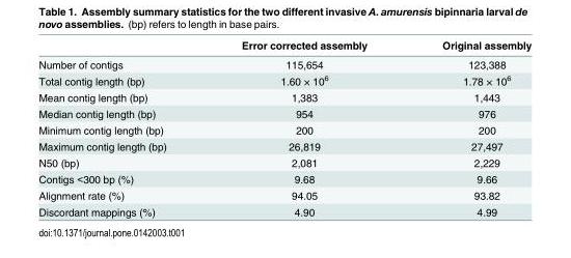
<table><thead><tr><td></td><td>Error corrected assembly</td><td>Original assembly</td></tr></thead><tbody><tr><td>Number of contigs</td><td>115,654</td><td>123,388</td></tr><tr><td>Total contig length (bp)</td><td>1.60 × 10<sup>6</sup></td><td>1.78 × 10<sup>6</sup></td></tr><tr><td>Mean contig length (bp)</td><td>1,383</td><td>1,443</td></tr><tr><td>Median contig length (bp)</td><td>954</td><td>976</td></tr><tr><td>Minimum contig length (bp)</td><td>200</td><td>200</td></tr><tr><td>Maximum contig length (bp)</td><td>26,819</td><td>27,497</td></tr><tr><td>N50 (bp)</td><td>2,081</td><td>2,229</td></tr><tr><td>Contigs &lt;300 bp (%)</td><td>9.68</td><td>9.66</td></tr><tr><td>Alignment rate (%)</td><td>94.05</td><td>93.82</td></tr><tr><td>Discordant mappings (%)</td><td>4.90</td><td>4.99</td></tr></tbody></table>